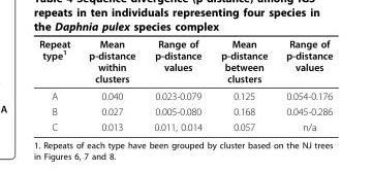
<table><thead><tr><td>Repeat type<sup>1</sup></td><td>Mean p-distance within clusters</td><td>Range of p-distance values</td><td>Mean p-distance between clusters</td><td>Range of p-distance values</td></tr></thead><tbody><tr><td>A</td><td>0.040</td><td>0.023-0.079</td><td>0.125</td><td>0.054-0.176</td></tr><tr><td>B</td><td>0.027</td><td>0.005-0.080</td><td>0.168</td><td>0.045-0.286</td></tr><tr><td>C</td><td>0.013</td><td>0.011, 0.014</td><td>0.057</td><td>n/a</td></tr></tbody></table>